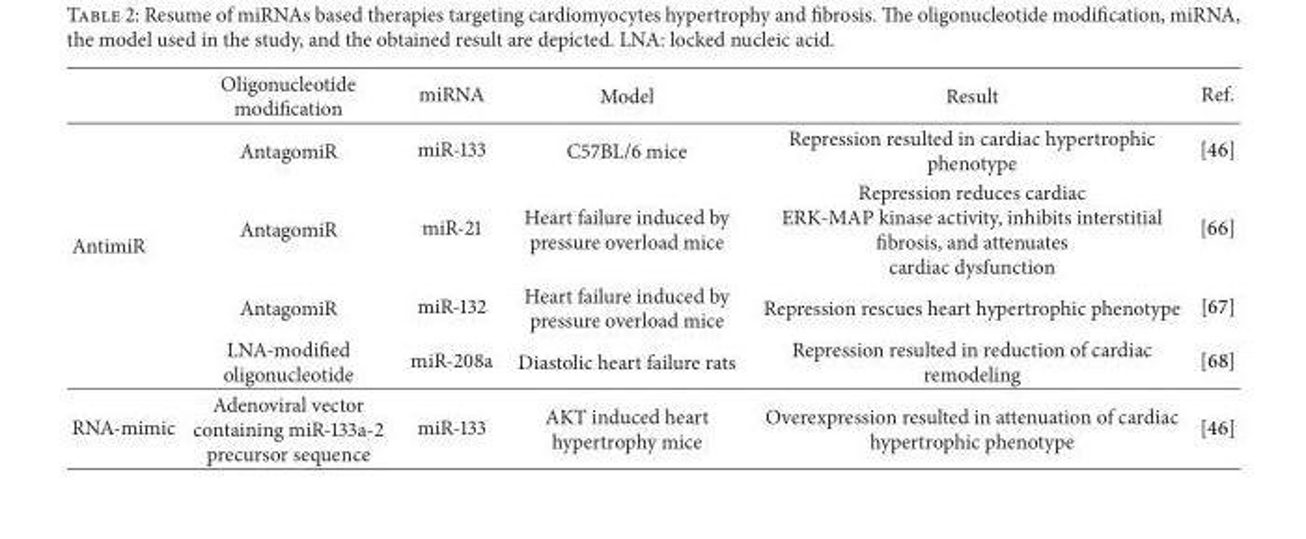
<table><thead><tr><td></td><td>Oligonucleotide modification</td><td>miRNA</td><td>Model</td><td>Result</td><td>Ref.</td></tr></thead><tbody><tr><td rowspan="4">AntimiR</td><td>AntagomiR</td><td>miR-133</td><td>C57BL/6 mice</td><td>Repression resulted in cardiac hypertrophic phenotype</td><td>[46]</td></tr><tr><td>AntagomiR</td><td>miR-21</td><td>Heart failure induced by pressure overload mice</td><td>Repression reduces cardiac ERK-MAP kinase activity, inhibits interstitial fibrosis, and attenuates cardiac dysfunction</td><td>[66]</td></tr><tr><td>AntagomiR</td><td>miR-132</td><td>Heart failure induced by pressure overload mice</td><td>Repression rescues heart hypertrophic phenotype</td><td>[67]</td></tr><tr><td>LNA-modified oligonucleotide</td><td>miR-208a</td><td>Diastolic heart failure rats</td><td>Repression resulted in reduction of cardiac remodeling</td><td>[68]</td></tr><tr><td>RNA-mimic</td><td>Adenoviral vector containing miR-133a-2 precursor sequence</td><td>miR-133</td><td>AKT induced heart hypertrophy mice</td><td>Overexpression resulted in attenuation of cardiac hypertrophic phenotype</td><td>[46]</td></tr></tbody></table>